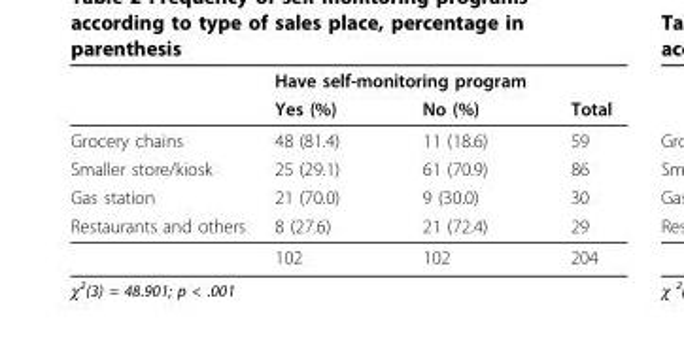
<table><thead><tr><td rowspan="2"></td><td colspan="2">Have self-monitoring program</td><td rowspan="2">Total</td></tr><tr><td>Yes (%)</td><td>No (%)</td></tr></thead><tbody><tr><td>Grocery chains</td><td>48 (81.4)</td><td>11 (18.6)</td><td>59</td></tr><tr><td>Smaller store/kiosk</td><td>25 (29.1)</td><td>61 (70.9)</td><td>86</td></tr><tr><td>Gas station</td><td>21 (70.0)</td><td>9 (30.0)</td><td>30</td></tr><tr><td rowspan="2">Restaurants and others</td><td>8 (27.6)</td><td>21 (72.4)</td><td>29</td></tr><tr><td>102</td><td>102</td><td>204</td></tr></tbody></table>